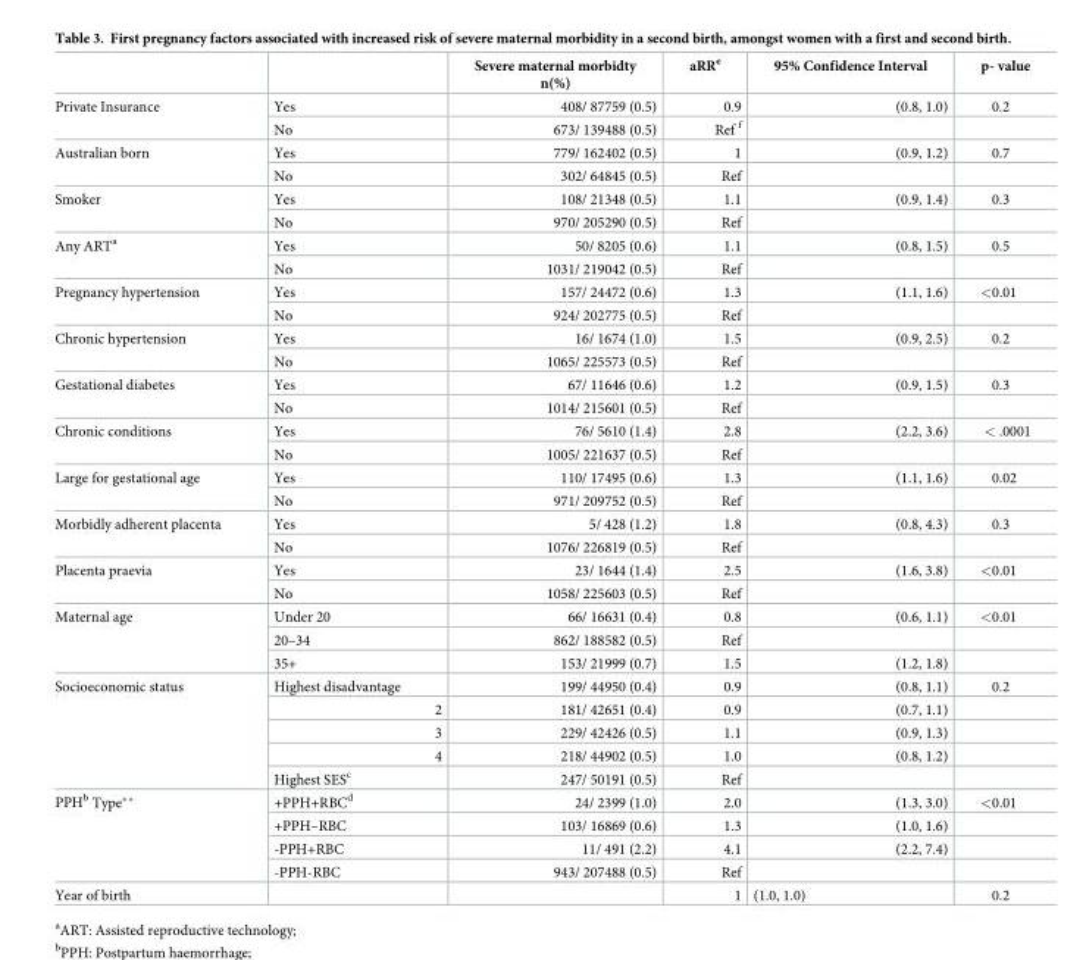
<table><thead><tr><td></td><td></td><td>Severe maternal morbidty n(%)</td><td>aRR<sup>e</sup></td><td>95% Confidence Interval</td><td>p- value</td></tr></thead><tbody><tr><td rowspan="2">Private Insurance</td><td>Yes</td><td>408/ 87759 (0.5)</td><td>0.9</td><td>(0.8, 1.0)</td><td>0.2</td></tr><tr><td>No</td><td>673/ 139488 (0.5)</td><td>Ref <sup>f</sup></td><td></td><td></td></tr><tr><td rowspan="2">Australian born</td><td>Yes</td><td>779/ 162402 (0.5)</td><td>1</td><td>(0.9, 1.2)</td><td>0.7</td></tr><tr><td>No</td><td>302/ 64845 (0.5)</td><td>Ref</td><td></td><td></td></tr><tr><td rowspan="2">Smoker</td><td>Yes</td><td>108/ 21348 (0.5)</td><td>1.1</td><td>(0.9, 1.4)</td><td>0.3</td></tr><tr><td>No</td><td>970/ 205290 (0.5)</td><td>Ref</td><td></td><td></td></tr><tr><td rowspan="2">Any ART<sup>a</sup></td><td>Yes</td><td>50/ 8205 (0.6)</td><td>1.1</td><td>(0.8, 1.5)</td><td>0.5</td></tr><tr><td>No</td><td>1031/ 219042 (0.5)</td><td>Ref</td><td></td><td></td></tr><tr><td rowspan="2">Pregnancy hypertension</td><td>Yes</td><td>157/ 24472 (0.6)</td><td>1.3</td><td>(1.1, 1.6)</td><td>&lt;0.01</td></tr><tr><td>No</td><td>924/ 202775 (0.5)</td><td>Ref</td><td></td><td></td></tr><tr><td rowspan="2">Chronic hypertension</td><td>Yes</td><td>16/ 1674 (1.0)</td><td>1.5</td><td>(0.9, 2.5)</td><td>0.2</td></tr><tr><td>No</td><td>1065/ 225573 (0.5)</td><td>Ref</td><td></td><td></td></tr><tr><td rowspan="2">Gestational diabetes</td><td>Yes</td><td>67/ 11646 (0.6)</td><td>1.2</td><td>(0.9, 1.5)</td><td>0.3</td></tr><tr><td>No</td><td>1014/ 215601 (0.5)</td><td>Ref</td><td></td><td></td></tr><tr><td rowspan="2">Chronic conditions</td><td>Yes</td><td>76/ 5610 (1.4)</td><td>2.8</td><td>(2.2, 3.6)</td><td>&lt; .0001</td></tr><tr><td>No</td><td>1005/ 221637 (0.5)</td><td>Ref</td><td></td><td></td></tr><tr><td rowspan="2">Large for gestational age</td><td>Yes</td><td>110/ 17495 (0.6)</td><td>1.3</td><td>(1.1, 1.6)</td><td>0.02</td></tr><tr><td>No</td><td>971/ 209752 (0.5)</td><td>Ref</td><td></td><td></td></tr><tr><td rowspan="2">Morbidly adherent placenta</td><td>Yes</td><td>5/ 428 (1.2)</td><td>1.8</td><td>(0.8, 4.3)</td><td>0.3</td></tr><tr><td>No</td><td>1076/ 226819 (0.5)</td><td>Ref</td><td></td><td></td></tr><tr><td rowspan="2">Placenta praevia</td><td>Yes</td><td>23/ 1644 (1.4)</td><td>2.5</td><td>(1.6, 3.8)</td><td>&lt;0.01</td></tr><tr><td>No</td><td>1058/ 225603 (0.5)</td><td>Ref</td><td></td><td></td></tr><tr><td rowspan="3">Maternal age</td><td>Under 20</td><td>66/ 16631 (0.4)</td><td>0.8</td><td>(0.6, 1.1)</td><td>&lt;0.01</td></tr><tr><td>20–34</td><td>862/ 188582 (0.5)</td><td>Ref</td><td></td><td></td></tr><tr><td>35+</td><td>153/ 21999 (0.7)</td><td>1.5</td><td>(1.2, 1.8)</td><td></td></tr><tr><td rowspan="5">Socioeconomic status</td><td>Highest disadvantage</td><td>199/ 44950 (0.4)</td><td>0.9</td><td>(0.8, 1.1)</td><td>0.2</td></tr><tr><td>2</td><td>181/ 42651 (0.4)</td><td>0.9</td><td>(0.7, 1.1)</td><td></td></tr><tr><td>3</td><td>229/ 42426 (0.5)</td><td>1.1</td><td>(0.9, 1.3)</td><td></td></tr><tr><td>4</td><td>218/ 44902 (0.5)</td><td>1.0</td><td>(0.8, 1.2)</td><td></td></tr><tr><td>Highest SES<sup>c</sup></td><td>247/ 50191 (0.5)</td><td>Ref</td><td></td><td></td></tr><tr><td rowspan="4">PPH<sup>b</sup> Type**</td><td>+PPH+RBC<sup>d</sup></td><td>24/ 2399 (1.0)</td><td>2.0</td><td>(1.3, 3.0)</td><td>&lt;0.01</td></tr><tr><td>+PPH–RBC</td><td>103/ 16869 (0.6)</td><td>1.3</td><td>(1.0, 1.6)</td><td></td></tr><tr><td>-PPH+RBC</td><td>11/ 491 (2.2)</td><td>4.1</td><td>(2.2, 7.4)</td><td></td></tr><tr><td>-PPH-RBC</td><td>943/ 207488 (0.5)</td><td>Ref</td><td></td><td></td></tr><tr><td>Year of birth</td><td></td><td></td><td>1</td><td>(1.0, 1.0)</td><td>0.2</td></tr></tbody></table>